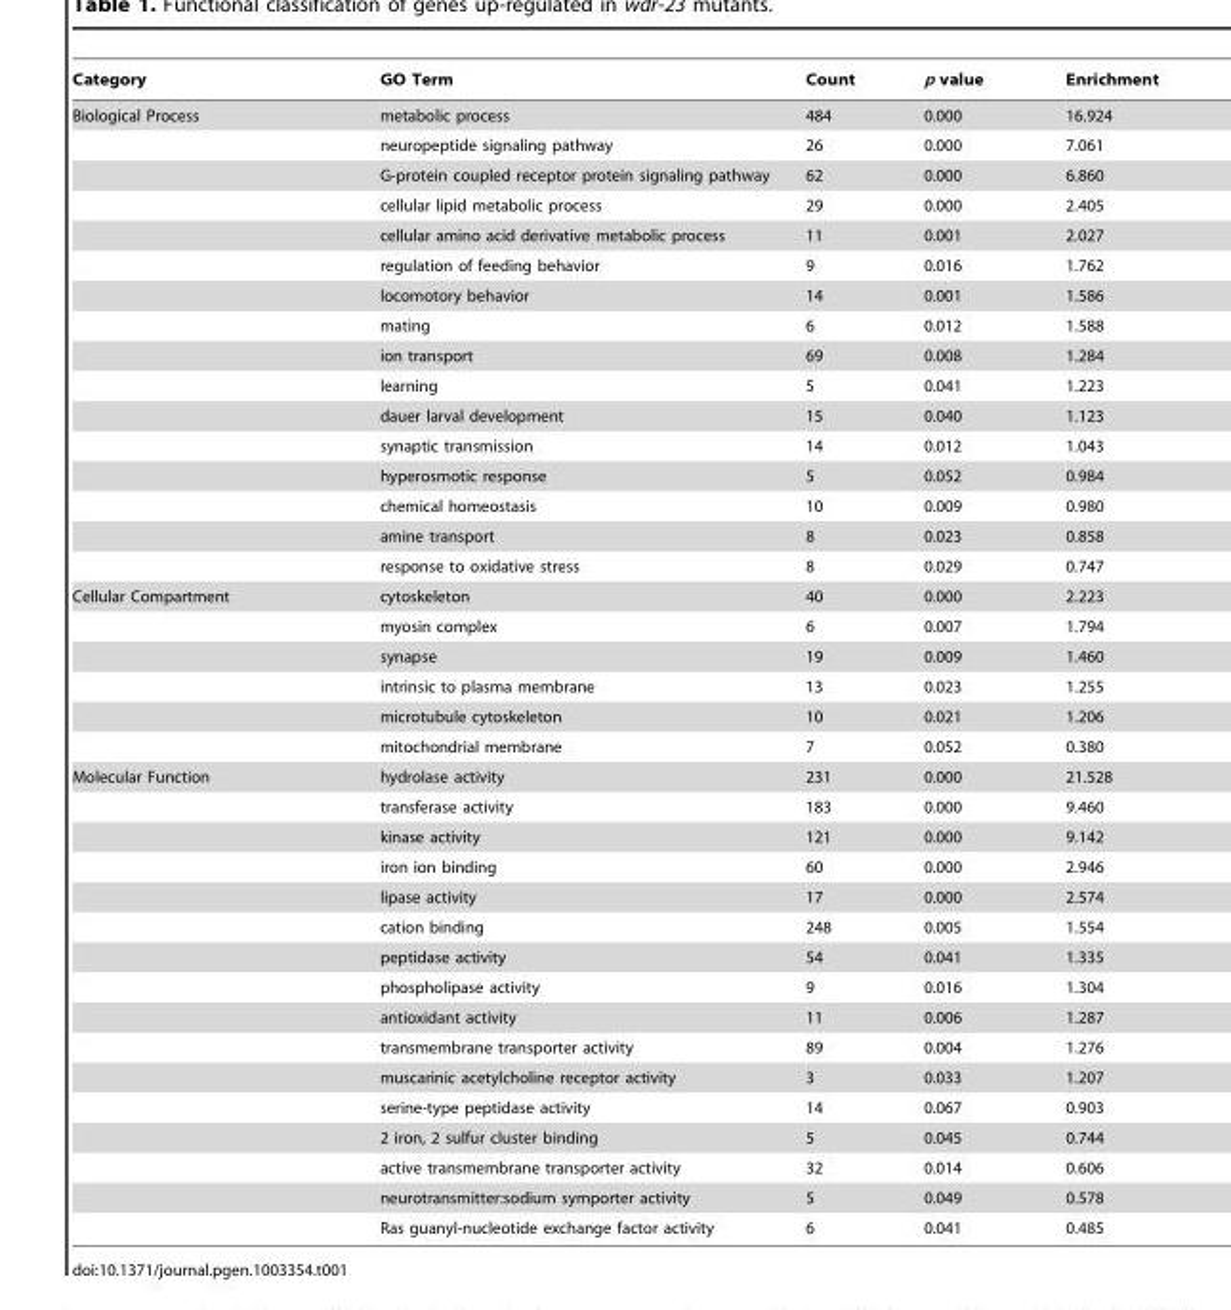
<table><thead><tr><td>Category</td><td>GO Term</td><td>Count</td><td>p value</td><td>Enrichment</td></tr></thead><tbody><tr><td rowspan="16">Biological Process</td><td>metabolic process</td><td>484</td><td>0.000</td><td>16.924</td></tr><tr><td>neuropeptide signaling pathway</td><td>26</td><td>0.000</td><td>7.061</td></tr><tr><td>G-protein coupled receptor protein signaling pathway</td><td>62</td><td>0.000</td><td>6.860</td></tr><tr><td>cellular lipid metabolic process</td><td>29</td><td>0.000</td><td>2.405</td></tr><tr><td>cellular amino acid derivative metabolic process</td><td>11</td><td>0.001</td><td>2.027</td></tr><tr><td>regulation of feeding behavior</td><td>9</td><td>0.016</td><td>1.762</td></tr><tr><td>locomotory behavior</td><td>14</td><td>0.001</td><td>1.586</td></tr><tr><td>mating</td><td>6</td><td>0.012</td><td>1.588</td></tr><tr><td>ion transport</td><td>69</td><td>0.008</td><td>1.284</td></tr><tr><td>learning</td><td>5</td><td>0.041</td><td>1.223</td></tr><tr><td>dauer larval development</td><td>15</td><td>0.040</td><td>1.123</td></tr><tr><td>synaptic transmission</td><td>14</td><td>0.012</td><td>1.043</td></tr><tr><td>hyperosmotic response</td><td>5</td><td>0.052</td><td>0.984</td></tr><tr><td>chemical homeostasis</td><td>10</td><td>0.009</td><td>0.980</td></tr><tr><td>amine transport</td><td>8</td><td>0.023</td><td>0.858</td></tr><tr><td>response to oxidative stress</td><td>8</td><td>0.029</td><td>0.747</td></tr><tr><td rowspan="6">Cellular Compartment</td><td>cytoskeleton</td><td>40</td><td>0.000</td><td>2.223</td></tr><tr><td>myosin complex</td><td>6</td><td>0.007</td><td>1.794</td></tr><tr><td>synapse</td><td>19</td><td>0.009</td><td>1.460</td></tr><tr><td>intrinsic to plasma membrane</td><td>13</td><td>0.023</td><td>1.255</td></tr><tr><td>microtubule cytoskeleton</td><td>10</td><td>0.021</td><td>1.206</td></tr><tr><td>mitochondrial membrane</td><td>7</td><td>0.052</td><td>0.380</td></tr><tr><td rowspan="16">Molecular Function</td><td>hydrolase activity</td><td>231</td><td>0.000</td><td>21.528</td></tr><tr><td>transferase activity</td><td>183</td><td>0.000</td><td>9.460</td></tr><tr><td>kinase activity</td><td>121</td><td>0.000</td><td>9.142</td></tr><tr><td>iron ion binding</td><td>60</td><td>0.000</td><td>2.946</td></tr><tr><td>lipase activity</td><td>17</td><td>0.000</td><td>2.574</td></tr><tr><td>cation binding</td><td>248</td><td>0.005</td><td>1.554</td></tr><tr><td>peptidase activity</td><td>54</td><td>0.041</td><td>1.335</td></tr><tr><td>phospholipase activity</td><td>9</td><td>0.016</td><td>1.304</td></tr><tr><td>antioxidant activity</td><td>11</td><td>0.006</td><td>1.287</td></tr><tr><td>transmembrane transporter activity</td><td>89</td><td>0.004</td><td>1.276</td></tr><tr><td>muscarinic acetylcholine receptor activity</td><td>3</td><td>0.033</td><td>1.207</td></tr><tr><td>serine-type peptidase activity</td><td>14</td><td>0.067</td><td>0.903</td></tr><tr><td>2 iron, 2 sulfur cluster binding</td><td>5</td><td>0.045</td><td>0.744</td></tr><tr><td>active transmembrane transporter activity</td><td>32</td><td>0.014</td><td>0.606</td></tr><tr><td>neurotransmitter:sodium symporter activity</td><td>5</td><td>0.049</td><td>0.578</td></tr><tr><td>Ras guanyl-nucleotide exchange factor activity</td><td>6</td><td>0.041</td><td>0.485</td></tr></tbody></table>